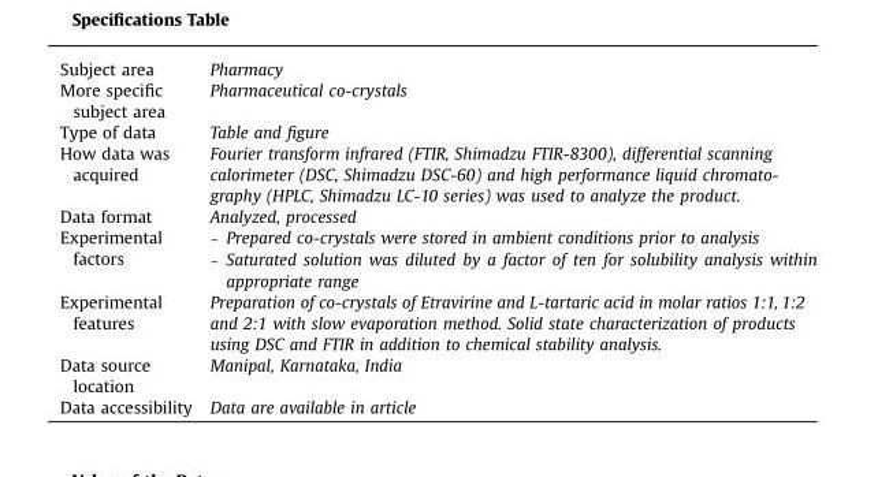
<table><thead><tr><td>Subject area</td><td>Pharmacy</td></tr></thead><tbody><tr><td>More specific subject area</td><td>Pharmaceutical co-crystals</td></tr><tr><td>Type of data</td><td>Table and figure</td></tr><tr><td>How data was acquired</td><td>Fourier transform infrared (FTIR, Shimadzu FTIR-8300), differential scanning calorimeter (DSC, Shimadzu DSC-60) and high performance liquid chromato- graphy (HPLC, Shimadzu LC-10 series) was used to analyze the product.</td></tr><tr><td>Data format</td><td>Analyzed, processed</td></tr><tr><td>Experimental factors</td><td>– Prepared co-crystals were stored in ambient conditions prior to analysis – Saturated solution was diluted by a factor of ten for solubility analysis within appropriate range</td></tr><tr><td>Experimental features</td><td>Preparation of co-crystals of Etravirine and L-tartaric acid in molar ratios 1:1, 1:2 and 2:1 with slow evaporation method. Solid state characterization of products using DSC and FTIR in addition to chemical stability analysis.</td></tr><tr><td>Data source location</td><td>Manipal, Karnataka, India</td></tr><tr><td>Data accessibility</td><td>Data are available in article</td></tr></tbody></table>